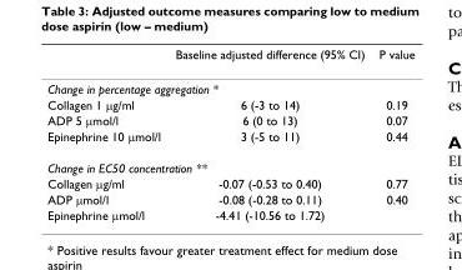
<table><thead><tr><td></td><td>Baseline adjusted difference (95% CI)</td><td>P value</td></tr></thead><tbody><tr><td colspan="3">Change in percentage aggregation *</td></tr><tr><td>Collagen 1 µg/ml</td><td>6 (-3 to 14)</td><td>0.19</td></tr><tr><td>ADP 5 µmol/l</td><td>6 (0 to 13)</td><td>0.07</td></tr><tr><td>Epinephrine 10 µmol/l</td><td>3 (-5 to 11)</td><td>0.44</td></tr><tr><td colspan="3">Change in EC50 concentration **</td></tr><tr><td>Collagen µg/ml</td><td>-0.07 (-0.53 to 0.40)</td><td>0.77</td></tr><tr><td>ADP µmol/l</td><td>-0.08 (-0.28 to 0.11)</td><td>0.40</td></tr><tr><td>Epinephrine µmol/l</td><td>-4.41 (-10.56 to 1.72)</td><td></td></tr></tbody></table>